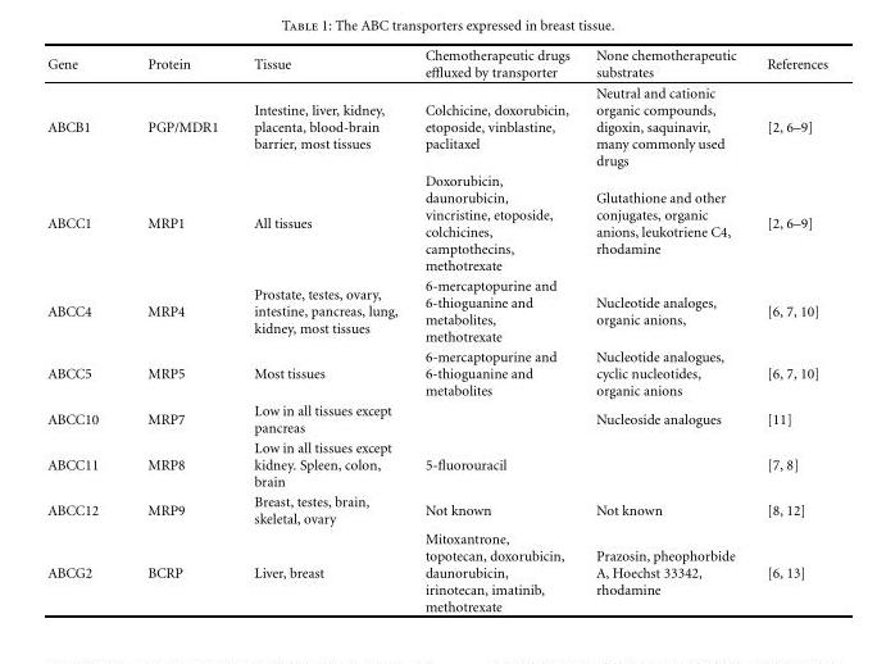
<table><thead><tr><td>Gene</td><td>Protein</td><td>Tissue</td><td>Chemotherapeutic drugs effluxed by transporter</td><td>None chemotherapeutic substrates</td><td>References</td></tr></thead><tbody><tr><td>ABCB1</td><td>PGP/MDR1</td><td>Intestine, liver, kidney, placenta, blood-brain barrier, most tissues</td><td>Colchicine, doxorubicin, etoposide, vinblastine, paclitaxel</td><td>Neutral and cationic organic compounds, digoxin, saquinavir, many commonly used drugs</td><td>[2, 6–9]</td></tr><tr><td>ABCC1</td><td>MRP1</td><td>All tissues</td><td>Doxorubicin, daunorubicin, vincristine, etoposide, colchicines, camptothecins, methotrexate</td><td>Glutathione and other conjugates, organic anions, leukotriene C4, rhodamine</td><td>[2, 6–9]</td></tr><tr><td>ABCC4</td><td>MRP4</td><td>Prostate, testes, ovary, intestine, pancreas, lung, kidney, most tissues</td><td>6-mercaptopurine and 6-thioguanine and metabolites, methotrexate</td><td>Nucleotide analoges, organic anions,</td><td>[6, 7, 10]</td></tr><tr><td>ABCC5</td><td>MRP5</td><td>Most tissues</td><td>6-mercaptopurine and 6-thioguanine and metabolites</td><td>Nucleotide analogues, cyclic nucleotides, organic anions</td><td>[6, 7, 10]</td></tr><tr><td>ABCC10</td><td>MRP7</td><td>Low in all tissues except pancreas</td><td></td><td>Nucleoside analogues</td><td>[11]</td></tr><tr><td>ABCC11</td><td>MRP8</td><td>Low in all tissues except kidney. Spleen, colon, brain</td><td>5-fluorouracil</td><td></td><td>[7, 8]</td></tr><tr><td>ABCC12</td><td>MRP9</td><td>Breast, testes, brain, skeletal, ovary</td><td>Not known</td><td>Not known</td><td>[8, 12]</td></tr><tr><td>ABCG2</td><td>BCRP</td><td>Liver, breast</td><td>Mitoxantrone, topotecan, doxorubicin, daunorubicin, irinotecan, imatinib, methotrexate</td><td>Prazosin, pheophorbide A, Hoechst 33342, rhodamine</td><td>[6, 13]</td></tr></tbody></table>